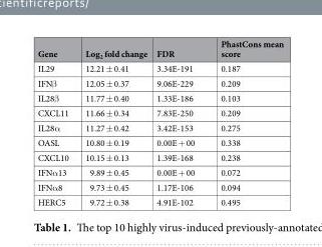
<table><thead><tr><td>Gene</td><td>Log<sub>2</sub> fold change</td><td>FDR</td><td>PhastCons mean score</td></tr></thead><tbody><tr><td>IL29</td><td>12.21 ± 0.41</td><td>3.34E-191</td><td>0.187</td></tr><tr><td>IFNβ</td><td>12.05 ± 0.37</td><td>9.06E-229</td><td>0.209</td></tr><tr><td>IL28β</td><td>11.77 ± 0.40</td><td>1.33E-186</td><td>0.103</td></tr><tr><td>CXCL11</td><td>11.66 ± 0.34</td><td>7.83E-250</td><td>0.209</td></tr><tr><td>IL28α</td><td>11.27 ± 0.42</td><td>3.42E-153</td><td>0.275</td></tr><tr><td>OASL</td><td>10.80 ± 0.19</td><td>0.00E + 00</td><td>0.338</td></tr><tr><td>CXCL10</td><td>10.15 ± 0.13</td><td>1.39E-168</td><td>0.238</td></tr><tr><td>IFNα13</td><td>9.89 ± 0.45</td><td>0.00E + 00</td><td>0.072</td></tr><tr><td>IFNα8</td><td>9.73 ± 0.45</td><td>1.17E-106</td><td>0.094</td></tr><tr><td>HERC5</td><td>9.72 ± 0.38</td><td>4.91E-102</td><td>0.495</td></tr></tbody></table>